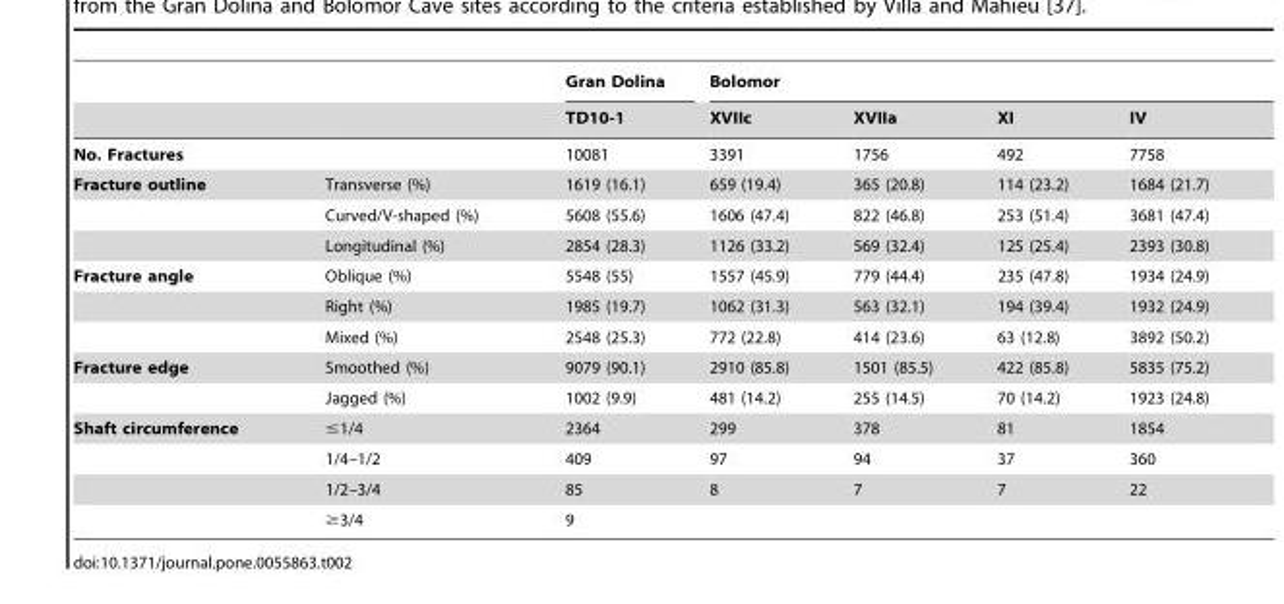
<table><thead><tr><td rowspan="2"></td><td rowspan="2"></td><td rowspan="2">Gran Dolina TD10-1</td><td colspan="4">Bolomor</td></tr><tr><td>XVIIc</td><td>XVIIa</td><td>XI</td><td>IV</td></tr></thead><tbody><tr><td>No. Fractures</td><td></td><td>10081</td><td>3391</td><td>1756</td><td>492</td><td>7758</td></tr><tr><td rowspan="3">Fracture outline</td><td>Transverse (%)</td><td>1619 (16.1)</td><td>659 (19.4)</td><td>365 (20.8)</td><td>114 (23.2)</td><td>1684 (21.7)</td></tr><tr><td>Curved/V-shaped (%)</td><td>5608 (55.6)</td><td>1606 (47.4)</td><td>822 (46.8)</td><td>253 (51.4)</td><td>3681 (47.4)</td></tr><tr><td>Longitudinal (%)</td><td>2854 (28.3)</td><td>1126 (33.2)</td><td>569 (32.4)</td><td>125 (25.4)</td><td>2393 (30.8)</td></tr><tr><td rowspan="3">Fracture angle</td><td>Oblique (%)</td><td>5548 (55)</td><td>1557 (45.9)</td><td>779 (44.4)</td><td>235 (47.8)</td><td>1934 (24.9)</td></tr><tr><td>Right (%)</td><td>1985 (19.7)</td><td>1062 (31.3)</td><td>563 (32.1)</td><td>194 (39.4)</td><td>1932 (24.9)</td></tr><tr><td>Mixed (%)</td><td>2548 (25.3)</td><td>772 (22.8)</td><td>414 (23.6)</td><td>63 (12.8)</td><td>3892 (50.2)</td></tr><tr><td rowspan="2">Fracture edge</td><td>Smoothed (%)</td><td>9079 (90.1)</td><td>2910 (85.8)</td><td>1501 (85.5)</td><td>422 (85.8)</td><td>5835 (75.2)</td></tr><tr><td>Jagged (%)</td><td>1002 (9.9)</td><td>481 (14.2)</td><td>255 (14.5)</td><td>70 (14.2)</td><td>1923 (24.8)</td></tr><tr><td rowspan="4">Shaft circumference</td><td>≤1/4</td><td>2364</td><td>299</td><td>378</td><td>81</td><td>1854</td></tr><tr><td>1/4–1/2</td><td>409</td><td>97</td><td>94</td><td>37</td><td>360</td></tr><tr><td>1/2–3/4</td><td>85</td><td>8</td><td>7</td><td>7</td><td>22</td></tr><tr><td>≥3/4</td><td>9</td><td></td><td></td><td></td><td></td></tr></tbody></table>